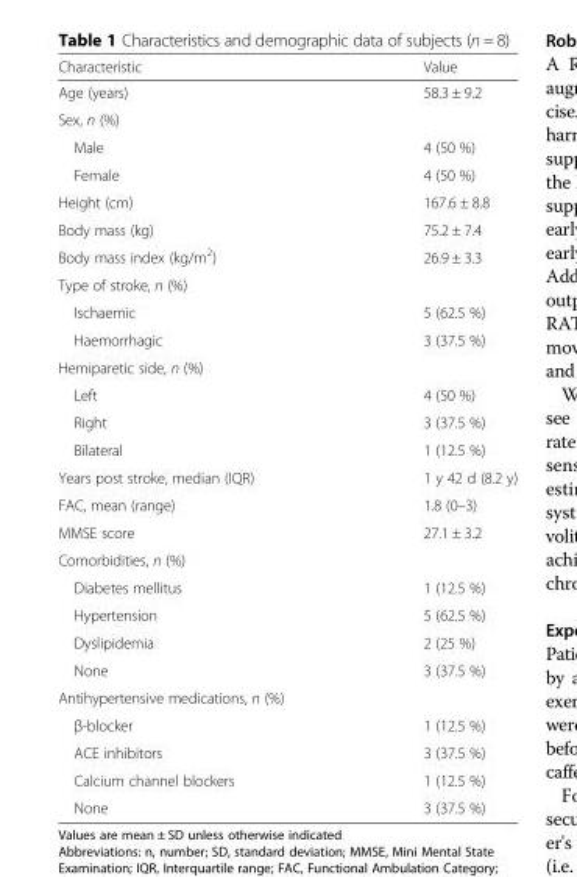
<table><thead><tr><td>Characteristic</td><td>Value</td></tr></thead><tbody><tr><td>Age (years)</td><td>58.3 ± 9.2</td></tr><tr><td colspan="2">Sex, n (%)</td></tr><tr><td>Male</td><td>4 (50 %)</td></tr><tr><td>Female</td><td>4 (50 %)</td></tr><tr><td>Height (cm)</td><td>167.6 ± 8.8</td></tr><tr><td>Body mass (kg)</td><td>75.2 ± 7.4</td></tr><tr><td>Body mass index (kg/m<sup>2</sup>)</td><td>26.9 ± 3.3</td></tr><tr><td colspan="2">Type of stroke, n (%)</td></tr><tr><td>Ischaemic</td><td>5 (62.5 %)</td></tr><tr><td>Haemorrhagic</td><td>3 (37.5 %)</td></tr><tr><td colspan="2">Hemiparetic side, n (%)</td></tr><tr><td>Left</td><td>4 (50 %)</td></tr><tr><td>Right</td><td>3 (37.5 %)</td></tr><tr><td>Bilateral</td><td>1 (12.5 %)</td></tr><tr><td>Years post stroke, median (IQR)</td><td>1 y 42 d (8.2 y)</td></tr><tr><td>FAC, mean (range)</td><td>1.8 (0–3)</td></tr><tr><td>MMSE score</td><td>27.1 ± 3.2</td></tr><tr><td colspan="2">Comorbidities, n (%)</td></tr><tr><td>Diabetes mellitus</td><td>1 (12.5 %)</td></tr><tr><td>Hypertension</td><td>5 (62.5 %)</td></tr><tr><td>Dyslipidemia</td><td>2 (25 %)</td></tr><tr><td>None</td><td>3 (37.5 %)</td></tr><tr><td colspan="2">Antihypertensive medications, n (%)</td></tr><tr><td>β-blocker</td><td>1 (12.5 %)</td></tr><tr><td>ACE inhibitors</td><td>3 (37.5 %)</td></tr><tr><td>Calcium channel blockers</td><td>1 (12.5 %)</td></tr><tr><td>None</td><td>3 (37.5 %)</td></tr></tbody></table>